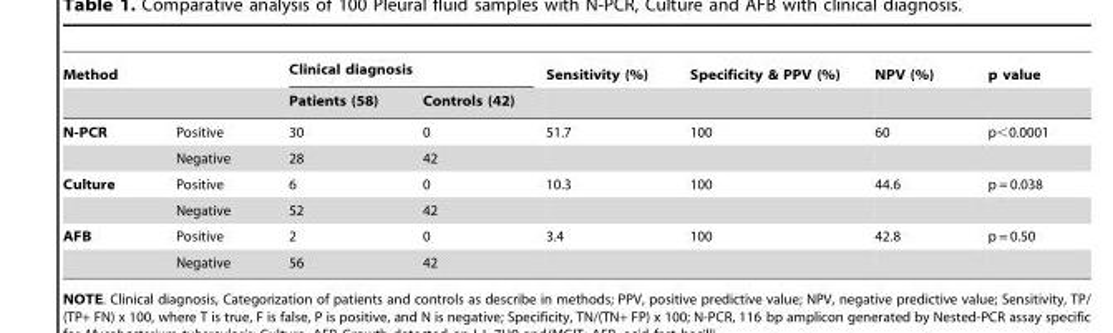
<table><thead><tr><td colspan="2">Method</td><td colspan="2">Clinical diagnosis</td><td rowspan="2">Sensitivity (%)</td><td rowspan="2">Specificity &amp; PPV (%)</td><td rowspan="2">NPV (%)</td><td rowspan="2">p value</td></tr><tr><td></td><td></td><td>Patients (58)</td><td>Controls (42)</td></tr></thead><tbody><tr><td rowspan="2">N-PCR</td><td>Positive</td><td>30</td><td>0</td><td>51.7</td><td>100</td><td>60</td><td>p&lt;0.0001</td></tr><tr><td>Negative</td><td>28</td><td>42</td><td></td><td></td><td></td><td></td></tr><tr><td rowspan="2">Culture</td><td>Positive</td><td>6</td><td>0</td><td>10.3</td><td>100</td><td>44.6</td><td>p = 0.038</td></tr><tr><td>Negative</td><td>52</td><td>42</td><td></td><td></td><td></td><td></td></tr><tr><td rowspan="2">AFB</td><td>Positive</td><td>2</td><td>0</td><td>3.4</td><td>100</td><td>42.8</td><td>p = 0.50</td></tr><tr><td>Negative</td><td>56</td><td>42</td><td></td><td></td><td></td><td></td></tr></tbody></table>